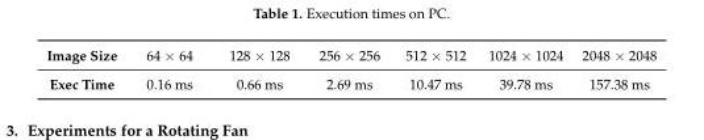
<table><tbody><tr><td>Image Size</td><td>64 × 64</td><td>128 × 128</td><td>256 × 256</td><td>512 × 512</td><td>1024 × 1024</td><td>2048 × 2048</td></tr><tr><td>Exec Time</td><td>0.16 ms</td><td>0.66 ms</td><td>2.69 ms</td><td>10.47 ms</td><td>39.78 ms</td><td>157.38 ms</td></tr></tbody></table>